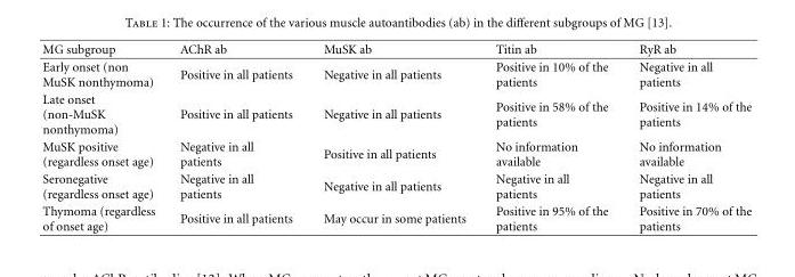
<table><thead><tr><td>MG subgroup</td><td>AChR ab</td><td>MuSK ab</td><td>Titin ab</td><td>RyR ab</td></tr></thead><tbody><tr><td>Early onset (non MuSK nonthymoma)</td><td>Positive in all patients</td><td>Negative in all patients</td><td>Positive in 10% of the patients</td><td>Negative in all patients</td></tr><tr><td>Late onset (non-MuSK nonthymoma)</td><td>Positive in all patients</td><td>Negative in all patients</td><td>Positive in 58% of the patients</td><td>Positive in 14% of the patients</td></tr><tr><td>MuSK positive (regardless onset age)</td><td>Negative in all patients</td><td>Positive in all patients</td><td>No information available</td><td>No information available</td></tr><tr><td>Seronegative (regardless onset age)</td><td>Negative in all patients</td><td>Negative in all patients</td><td>Negative in all patients</td><td>Negative in all patients</td></tr><tr><td>Thymoma (regardless of onset age)</td><td>Positive in all patients</td><td>May occur in some patients</td><td>Positive in 95% of the patients</td><td>Positive in 70% of the patients</td></tr></tbody></table>